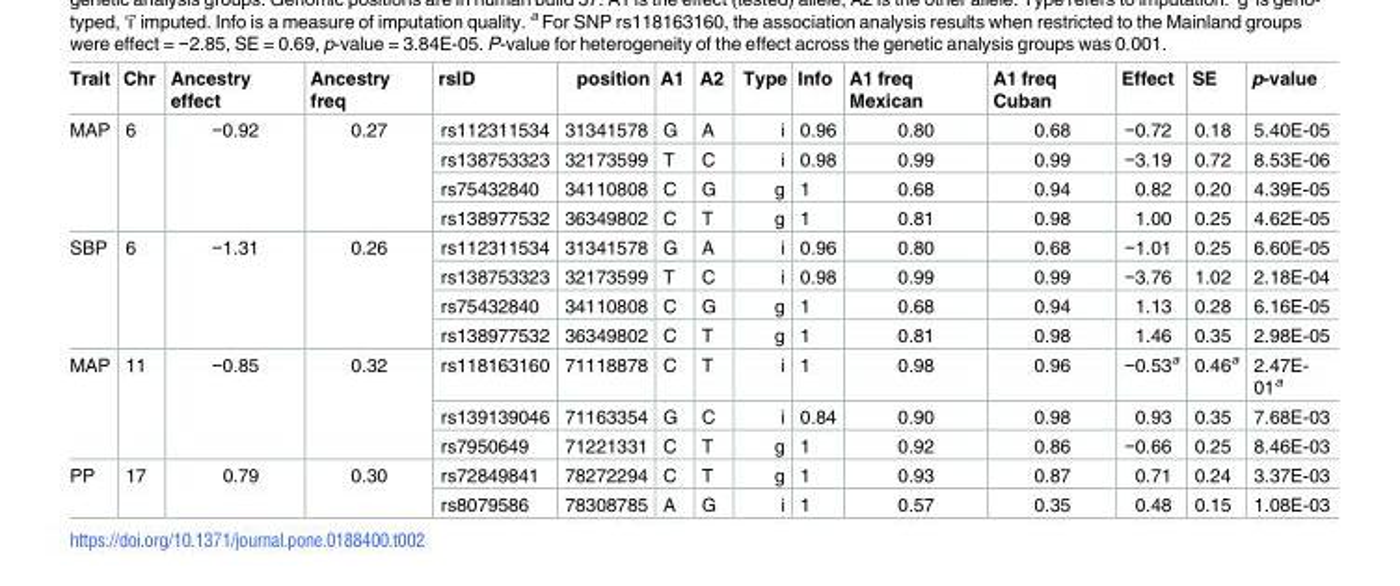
<table><thead><tr><td>Trait</td><td>Chr</td><td>Ancestry effect</td><td>Ancestry freq</td><td>rsID</td><td>position</td><td>A1</td><td>A2</td><td>Type</td><td>Info</td><td>A1 freq Mexican</td><td>A1 freq Cuban</td><td>Effect</td><td>SE</td><td>p-value</td></tr></thead><tbody><tr><td rowspan="4">MAP</td><td rowspan="4">6</td><td rowspan="4">−0.92</td><td rowspan="4">0.27</td><td>rs112311534</td><td>31341578</td><td>G</td><td>A</td><td>i</td><td>0.96</td><td>0.80</td><td>0.68</td><td>−0.72</td><td>0.18</td><td>5.40E-05</td></tr><tr><td>rs138753323</td><td>32173599</td><td>T</td><td>C</td><td>i</td><td>0.98</td><td>0.99</td><td>0.99</td><td>−3.19</td><td>0.72</td><td>8.53E-06</td></tr><tr><td>rs75432840</td><td>34110808</td><td>C</td><td>G</td><td>g</td><td>1</td><td>0.68</td><td>0.94</td><td>0.82</td><td>0.20</td><td>4.39E-05</td></tr><tr><td>rs138977532</td><td>36349802</td><td>C</td><td>T</td><td>g</td><td>1</td><td>0.81</td><td>0.98</td><td>1.00</td><td>0.25</td><td>4.62E-05</td></tr><tr><td rowspan="4">SBP</td><td rowspan="4">6</td><td rowspan="4">−1.31</td><td rowspan="4">0.26</td><td>rs112311534</td><td>31341578</td><td>G</td><td>A</td><td>i</td><td>0.96</td><td>0.80</td><td>0.68</td><td>−1.01</td><td>0.25</td><td>6.60E-05</td></tr><tr><td>rs138753323</td><td>32173599</td><td>T</td><td>C</td><td>i</td><td>0.98</td><td>0.99</td><td>0.99</td><td>−3.76</td><td>1.02</td><td>2.18E-04</td></tr><tr><td>rs75432840</td><td>34110808</td><td>C</td><td>G</td><td>g</td><td>1</td><td>0.68</td><td>0.94</td><td>1.13</td><td>0.28</td><td>6.16E-05</td></tr><tr><td>rs138977532</td><td>36349802</td><td>C</td><td>T</td><td>g</td><td>1</td><td>0.81</td><td>0.98</td><td>1.46</td><td>0.35</td><td>2.98E-05</td></tr><tr><td rowspan="3">MAP</td><td rowspan="3">11</td><td rowspan="3">−0.85</td><td rowspan="3">0.32</td><td>rs118163160</td><td>71118878</td><td>C</td><td>T</td><td>i</td><td>1</td><td>0.98</td><td>0.96</td><td>−0.53<sup>a</sup></td><td>0.46<sup>a</sup></td><td>2.47E- 01<sup>a</sup></td></tr><tr><td>rs139139046</td><td>71163354</td><td>G</td><td>C</td><td>i</td><td>0.84</td><td>0.90</td><td>0.98</td><td>0.93</td><td>0.35</td><td>7.68E-03</td></tr><tr><td>rs7950649</td><td>71221331</td><td>C</td><td>T</td><td>g</td><td>1</td><td>0.92</td><td>0.86</td><td>−0.66</td><td>0.25</td><td>8.46E-03</td></tr><tr><td rowspan="2">PP</td><td rowspan="2">17</td><td rowspan="2">0.79</td><td rowspan="2">0.30</td><td>rs72849841</td><td>78272294</td><td>C</td><td>T</td><td>g</td><td>1</td><td>0.93</td><td>0.87</td><td>0.71</td><td>0.24</td><td>3.37E-03</td></tr><tr><td>rs8079586</td><td>78308785</td><td>A</td><td>G</td><td>i</td><td>1</td><td>0.57</td><td>0.35</td><td>0.48</td><td>0.15</td><td>1.08E-03</td></tr></tbody></table>